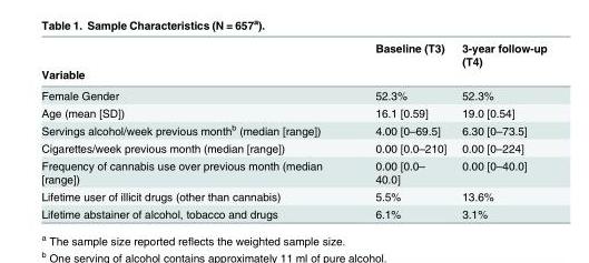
<table><thead><tr><td rowspan="2">Variable</td><td rowspan="2">Baseline (T3)</td><td rowspan="2">3-year follow-up (T4)</td></tr><tr></tr></thead><tbody><tr><td>Female Gender</td><td>52.3%</td><td>52.3%</td></tr><tr><td>Age (mean [SD])</td><td>16.1 [0.59]</td><td>19.0 [0.54]</td></tr><tr><td>Servings alcohol/week previous month<sup>b</sup> (median [range])</td><td>4.00 [0–69.5]</td><td>6.30 [0–73.5]</td></tr><tr><td>Cigarettes/week previous month (median [range])</td><td>0.00 [0.0–210]</td><td>0.00 [0–224]</td></tr><tr><td>Frequency of cannabis use over previous month (median [range])</td><td>0.00 [0.0– 40.0]</td><td>0.00 [0–40.0]</td></tr><tr><td>Lifetime user of illicit drugs (other than cannabis)</td><td>5.5%</td><td>13.6%</td></tr><tr><td>Lifetime abstainer of alcohol, tobacco and drugs</td><td>6.1%</td><td>3.1%</td></tr></tbody></table>